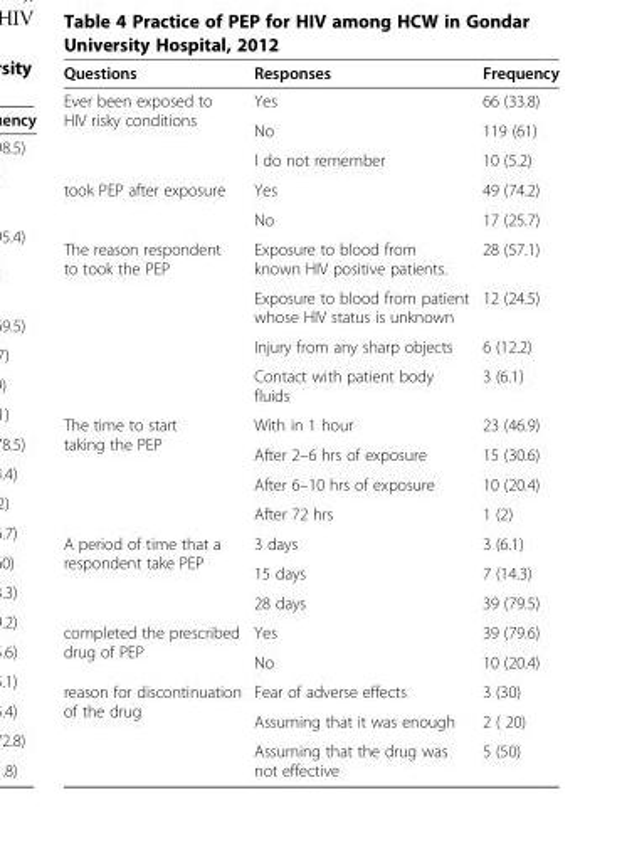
<table><thead><tr><td>Questions</td><td>Responses</td><td>Frequency</td></tr></thead><tbody><tr><td rowspan="3">Ever been exposed to HIV risky conditions</td><td>Yes</td><td>66 (33.8)</td></tr><tr><td>No</td><td>119 (61)</td></tr><tr><td>I do not remember</td><td>10 (5.2)</td></tr><tr><td rowspan="2">took PEP after exposure</td><td>Yes</td><td>49 (74.2)</td></tr><tr><td>No</td><td>17 (25.7)</td></tr><tr><td rowspan="4">The reason respondent to took the PEP</td><td>Exposure to blood from known HIV positive patients.</td><td>28 (57.1)</td></tr><tr><td>Exposure to blood from patient whose HIV status is unknown</td><td>12 (24.5)</td></tr><tr><td>Injury from any sharp objects</td><td>6 (12.2)</td></tr><tr><td>Contact with patient body fluids</td><td>3 (6.1)</td></tr><tr><td rowspan="4">The time to start taking the PEP</td><td>With in 1 hour</td><td>23 (46.9)</td></tr><tr><td>After 2–6 hrs of exposure</td><td>15 (30.6)</td></tr><tr><td>After 6–10 hrs of exposure</td><td>10 (20.4)</td></tr><tr><td>After 72 hrs</td><td>1 (2)</td></tr><tr><td rowspan="3">A period of time that a respondent take PEP</td><td>3 days</td><td>3 (6.1)</td></tr><tr><td>15 days</td><td>7 (14.3)</td></tr><tr><td>28 days</td><td>39 (79.5)</td></tr><tr><td rowspan="2">completed the prescribed drug of PEP</td><td>Yes</td><td>39 (79.6)</td></tr><tr><td>No</td><td>10 (20.4)</td></tr><tr><td rowspan="3">reason for discontinuation of the drug</td><td>Fear of adverse effects</td><td>3 (30)</td></tr><tr><td>Assuming that it was enough</td><td>2 ( 20)</td></tr><tr><td>Assuming that the drug was not effective</td><td>5 (50)</td></tr></tbody></table>